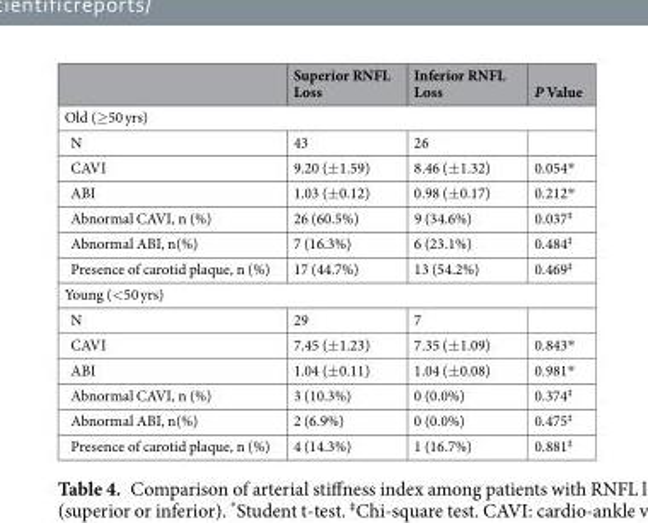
<table><thead><tr><td></td><td>Superior RNFL Loss</td><td>Inferior RNFL Loss</td><td>P Value</td></tr></thead><tbody><tr><td colspan="4">Old (≥50 yrs)</td></tr><tr><td>N</td><td>43</td><td>26</td><td></td></tr><tr><td>CAVI</td><td>9.20 (±1.59)</td><td>8.46 (±1.32)</td><td>0.054*</td></tr><tr><td>ABI</td><td>1.03 (±0.12)</td><td>0.98 (±0.17)</td><td>0.212*</td></tr><tr><td>Abnormal CAVI, n (%)</td><td>26 (60.5%)</td><td>9 (34.6%)</td><td>0.037<sup>‡</sup></td></tr><tr><td>Abnormal ABI, n(%)</td><td>7 (16.3%)</td><td>6 (23.1%)</td><td>0.484<sup>‡</sup></td></tr><tr><td>Presence of carotid plaque, n (%)</td><td>17 (44.7%)</td><td>13 (54.2%)</td><td>0.469<sup>‡</sup></td></tr><tr><td colspan="4">Young (&lt;50 yrs)</td></tr><tr><td>N</td><td>29</td><td>7</td><td></td></tr><tr><td>CAVI</td><td>7.45 (±1.23)</td><td>7.35 (±1.09)</td><td>0.843*</td></tr><tr><td>ABI</td><td>1.04 (±0.11)</td><td>1.04 (±0.08)</td><td>0.981*</td></tr><tr><td>Abnormal CAVI, n (%)</td><td>3 (10.3%)</td><td>0 (0.0%)</td><td>0.374<sup>‡</sup></td></tr><tr><td>Abnormal ABI, n(%)</td><td>2 (6.9%)</td><td>0 (0.0%)</td><td>0.475<sup>‡</sup></td></tr><tr><td>Presence of carotid plaque, n (%)</td><td>4 (14.3%)</td><td>1 (16.7%)</td><td>0.881<sup>‡</sup></td></tr></tbody></table>